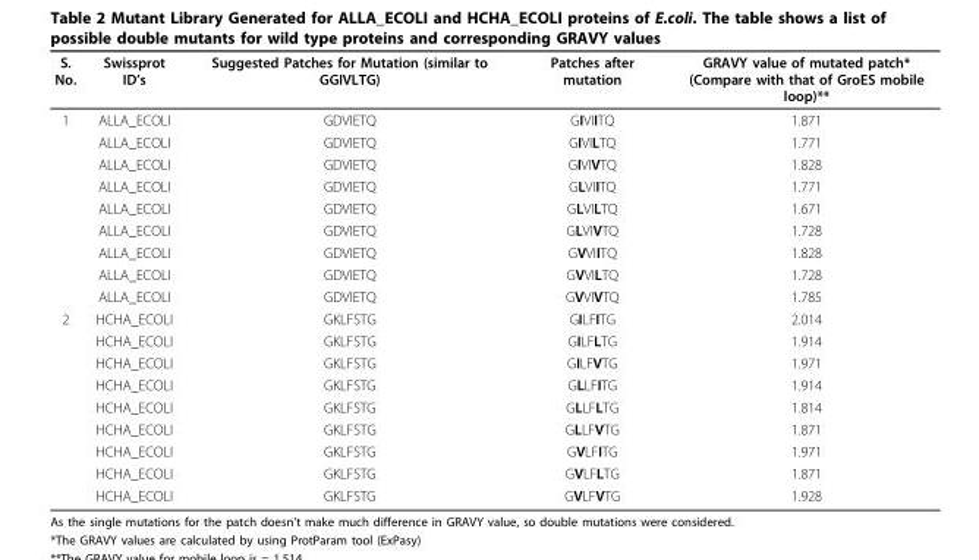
<table><thead><tr><td>S. No.</td><td>Swissprot ID’s</td><td>Suggested Patches for Mutation (similar to GGIVLTG)</td><td>Patches after mutation</td><td>GRAVY value of mutated patch* (Compare with that of GroES mobile loop)**</td></tr></thead><tbody><tr><td rowspan="9">1</td><td>ALLA_ECOLI</td><td>GDVIETQ</td><td>GIVIITQ</td><td>1.871</td></tr><tr><td>ALLA_ECOLI</td><td>GDVIETQ</td><td>GIVILTQ</td><td>1.771</td></tr><tr><td>ALLA_ECOLI</td><td>GDVIETQ</td><td>GIVIVTQ</td><td>1.828</td></tr><tr><td>ALLA_ECOLI</td><td>GDVIETQ</td><td>GLVIITQ</td><td>1.771</td></tr><tr><td>ALLA_ECOLI</td><td>GDVIETQ</td><td>GLVILTQ</td><td>1.671</td></tr><tr><td>ALLA_ECOLI</td><td>GDVIETQ</td><td>GLVIVTQ</td><td>1.728</td></tr><tr><td>ALLA_ECOLI</td><td>GDVIETQ</td><td>GVVIITQ</td><td>1.828</td></tr><tr><td>ALLA_ECOLI</td><td>GDVIETQ</td><td>GVVILTQ</td><td>1.728</td></tr><tr><td>ALLA_ECOLI</td><td>GDVIETQ</td><td>GVVIVTQ</td><td>1.785</td></tr><tr><td rowspan="9">2</td><td>HCHA_ECOLI</td><td>GKLFSTG</td><td>GILFITG</td><td>2.014</td></tr><tr><td>HCHA_ECOLI</td><td>GKLFSTG</td><td>GILFLTG</td><td>1.914</td></tr><tr><td>HCHA_ECOLI</td><td>GKLFSTG</td><td>GILFVTG</td><td>1.971</td></tr><tr><td>HCHA_ECOLI</td><td>GKLFSTG</td><td>GLLFITG</td><td>1.914</td></tr><tr><td>HCHA_ECOLI</td><td>GKLFSTG</td><td>GLLFLTG</td><td>1.814</td></tr><tr><td>HCHA_ECOLI</td><td>GKLFSTG</td><td>GLLFVTG</td><td>1.871</td></tr><tr><td>HCHA_ECOLI</td><td>GKLFSTG</td><td>GVLFITG</td><td>1.971</td></tr><tr><td>HCHA_ECOLI</td><td>GKLFSTG</td><td>GVLFLTG</td><td>1.871</td></tr><tr><td>HCHA_ECOLI</td><td>GKLFSTG</td><td>GVLFVTG</td><td>1.928</td></tr></tbody></table>